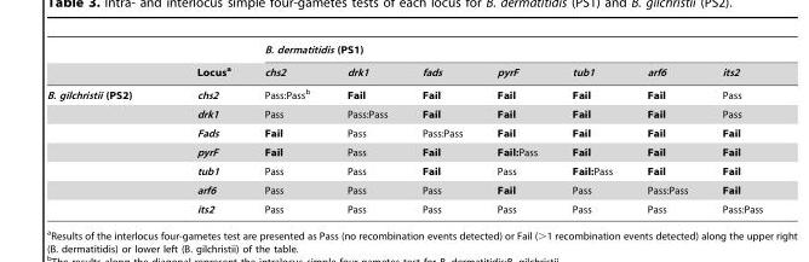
<table><thead><tr><td rowspan="2"></td><td rowspan="2">Locus<sup>a</sup></td><td colspan="7">B. dermatitidis (PS1)</td></tr><tr><td>chs2</td><td>drk1</td><td>fads</td><td>pyrF</td><td>tub1</td><td>arf6</td><td>its2</td></tr></thead><tbody><tr><td rowspan="7">B. gilchristii (PS2)</td><td>chs2</td><td>Pass:Pass<sup>b</sup></td><td>Fail</td><td>Fail</td><td>Fail</td><td>Fail</td><td>Fail</td><td>Pass</td></tr><tr><td>drk1</td><td>Pass</td><td>Pass:Pass</td><td>Fail</td><td>Fail</td><td>Fail</td><td>Fail</td><td>Pass</td></tr><tr><td>Fads</td><td>Fail</td><td>Pass</td><td>Pass:Pass</td><td>Fail</td><td>Fail</td><td>Fail</td><td>Fail</td></tr><tr><td>pyrF</td><td>Fail</td><td>Pass</td><td>Fail</td><td>Fail:Pass</td><td>Fail</td><td>Fail</td><td>Fail</td></tr><tr><td>tub1</td><td>Pass</td><td>Pass</td><td>Fail</td><td>Pass</td><td>Fail:Pass</td><td>Fail</td><td>Fail</td></tr><tr><td>arf6</td><td>Pass</td><td>Pass</td><td>Pass</td><td>Fail</td><td>Pass</td><td>Pass:Pass</td><td>Fail</td></tr><tr><td>its2</td><td>Pass</td><td>Pass</td><td>Pass</td><td>Pass</td><td>Pass</td><td>Pass</td><td>Pass:Pass</td></tr></tbody></table>